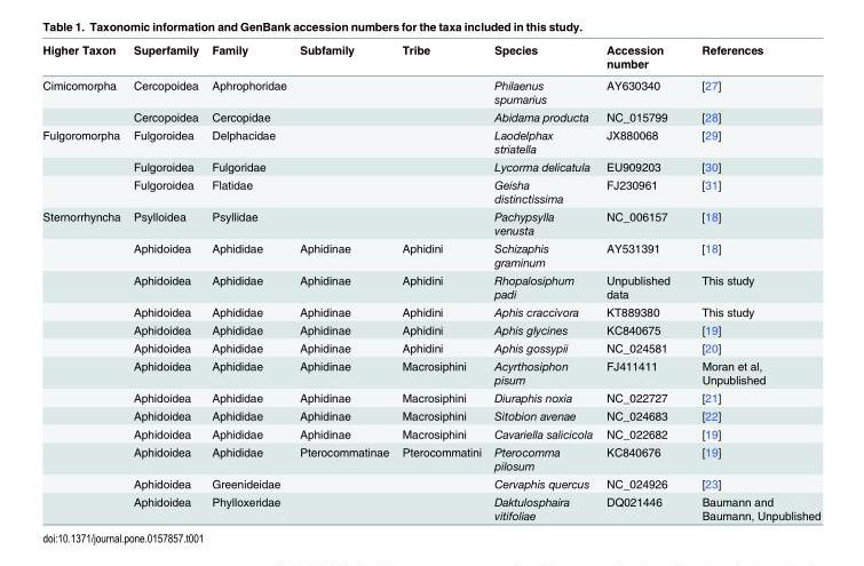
<table><thead><tr><td>Higher Taxon</td><td>Superfamily</td><td>Family</td><td>Subfamily</td><td>Tribe</td><td>Species</td><td>Accession number</td><td>References</td></tr></thead><tbody><tr><td rowspan="2">Cimicomorpha</td><td>Cercopoidea</td><td>Aphrophoridae</td><td></td><td></td><td>Philaenus spumarius</td><td>AY630340</td><td>[27]</td></tr><tr><td>Cercopoidea</td><td>Cercopidae</td><td></td><td></td><td>Abidama producta</td><td>NC_015799</td><td>[28]</td></tr><tr><td rowspan="3">Fulgoromorpha</td><td>Fulgoroidea</td><td>Delphacidae</td><td></td><td></td><td>Laodelphax striatella</td><td>JX880068</td><td>[29]</td></tr><tr><td>Fulgoroidea</td><td>Fulgoridae</td><td></td><td></td><td>Lycorma delicatula</td><td>EU909203</td><td>[30]</td></tr><tr><td>Fulgoroidea</td><td>Flatidae</td><td></td><td></td><td>Geisha distinctissima</td><td>FJ230961</td><td>[31]</td></tr><tr><td rowspan="13">Sternorrhyncha</td><td>Psylloidea</td><td>Psyllidae</td><td></td><td></td><td>Pachypsylla venusta</td><td>NC_006157</td><td>[18]</td></tr><tr><td>Aphidoidea</td><td>Aphididae</td><td>Aphidinae</td><td>Aphidini</td><td>Schizaphis graminum</td><td>AY531391</td><td>[18]</td></tr><tr><td>Aphidoidea</td><td>Aphididae</td><td>Aphidinae</td><td>Aphidini</td><td>Rhopalosiphum padi</td><td>Unpublished data</td><td>This study</td></tr><tr><td>Aphidoidea</td><td>Aphididae</td><td>Aphidinae</td><td>Aphidini</td><td>Aphis craccivora</td><td>KT889380</td><td>This study</td></tr><tr><td>Aphidoidea</td><td>Aphididae</td><td>Aphidinae</td><td>Aphidini</td><td>Aphis glycines</td><td>KC840675</td><td>[19]</td></tr><tr><td>Aphidoidea</td><td>Aphididae</td><td>Aphidinae</td><td>Aphidini</td><td>Aphis gossypii</td><td>NC_024581</td><td>[20]</td></tr><tr><td>Aphidoidea</td><td>Aphididae</td><td>Aphidinae</td><td>Macrosiphini</td><td>Acyrthosiphon pisum</td><td>FJ411411</td><td>Moran et al, Unpublished</td></tr><tr><td>Aphidoidea</td><td>Aphididae</td><td>Aphidinae</td><td>Macrosiphini</td><td>Diuraphis noxia</td><td>NC_022727</td><td>[21]</td></tr><tr><td>Aphidoidea</td><td>Aphididae</td><td>Aphidinae</td><td>Macrosiphini</td><td>Sitobion avenae</td><td>NC_024683</td><td>[22]</td></tr><tr><td>Aphidoidea</td><td>Aphididae</td><td>Aphidinae</td><td>Macrosiphini</td><td>Cavariella salicicola</td><td>NC_022682</td><td>[19]</td></tr><tr><td>Aphidoidea</td><td>Aphididae</td><td>Pterocommatinae</td><td>Pterocommatini</td><td>Pterocomma pilosum</td><td>KC840676</td><td>[19]</td></tr><tr><td>Aphidoidea</td><td>Greenideidae</td><td></td><td></td><td>Cervaphis quercus</td><td>NC_024926</td><td>[23]</td></tr><tr><td>Aphidoidea</td><td>Phylloxeridae</td><td></td><td></td><td>Daktulosphaira vitifoliae</td><td>DQ021446</td><td>Baumann and Baumann, Unpublished</td></tr></tbody></table>